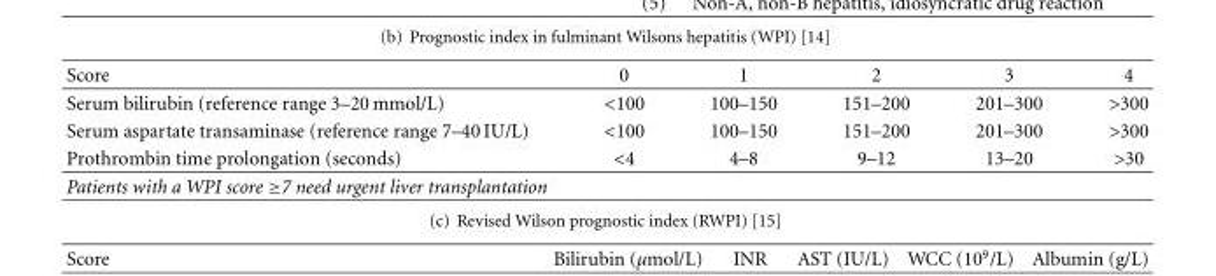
<table><thead><tr><td>Score</td><td>0</td><td>1</td><td>2</td><td>3</td><td>4</td></tr></thead><tbody><tr><td>Serum bilirubin (reference range 3–20 mmol/L)</td><td>&lt;100</td><td>100–150</td><td>151–200</td><td>201–300</td><td>&gt;300</td></tr><tr><td>Serum aspartate transaminase (reference range 7–40 IU/L)</td><td>&lt;100</td><td>100–150</td><td>151–200</td><td>201–300</td><td>&gt;300</td></tr><tr><td>Prothrombin time prolongation (seconds)</td><td>&lt;4</td><td>4–8</td><td>9–12</td><td>13–20</td><td>&gt;30</td></tr><tr><td>Patients with a WPI score ≥7 need urgent liver transplantation</td><td></td><td></td><td></td><td></td><td></td></tr></tbody></table>